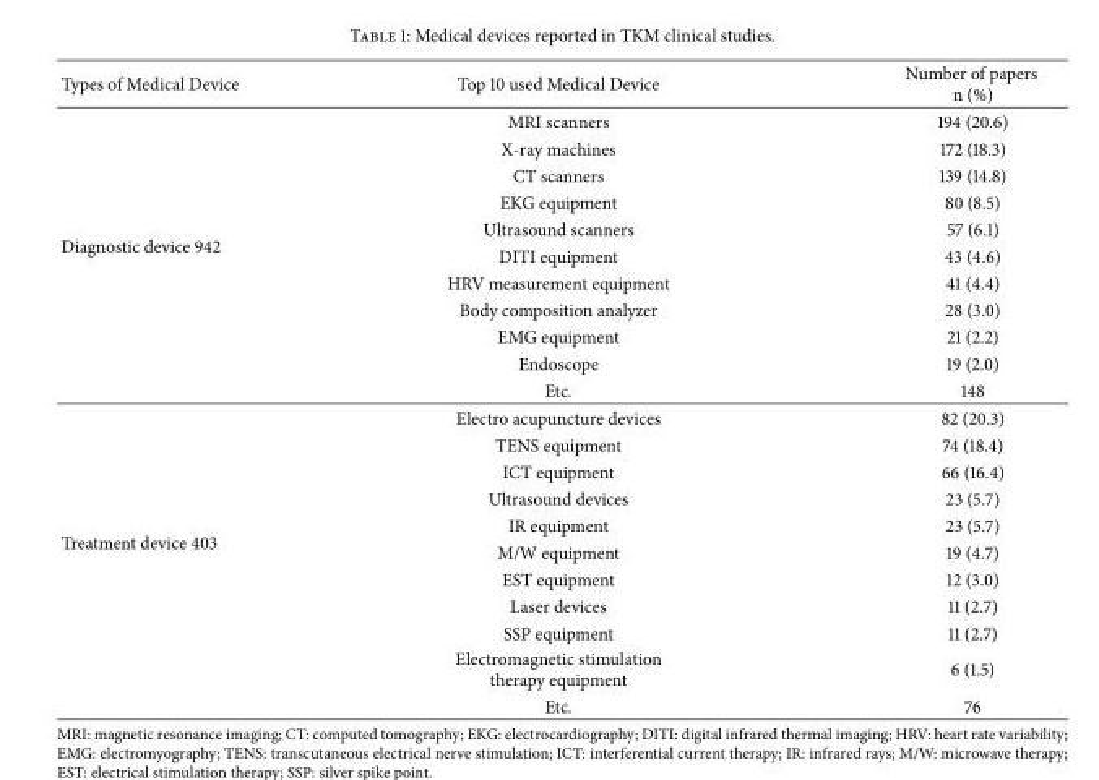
<table><thead><tr><td>Types of Medical Device</td><td>Top 10 used Medical Device</td><td>Number of papers n (%)</td></tr></thead><tbody><tr><td rowspan="11">Diagnostic device 942</td><td>MRI scanners</td><td>194 (20.6)</td></tr><tr><td>X-ray machines</td><td>172 (18.3)</td></tr><tr><td>CT scanners</td><td>139 (14.8)</td></tr><tr><td>EKG equipment</td><td>80 (8.5)</td></tr><tr><td>Ultrasound scanners</td><td>57 (6.1)</td></tr><tr><td>DITI equipment</td><td>43 (4.6)</td></tr><tr><td>HRV measurement equipment</td><td>41 (4.4)</td></tr><tr><td>Body composition analyzer</td><td>28 (3.0)</td></tr><tr><td>EMG equipment</td><td>21 (2.2)</td></tr><tr><td>Endoscope</td><td>19 (2.0)</td></tr><tr><td>Etc.</td><td>148</td></tr><tr><td rowspan="11">Treatment device 403</td><td>Electro acupuncture devices</td><td>82 (20.3)</td></tr><tr><td>TENS equipment</td><td>74 (18.4)</td></tr><tr><td>ICT equipment</td><td>66 (16.4)</td></tr><tr><td>Ultrasound devices</td><td>23 (5.7)</td></tr><tr><td>IR equipment</td><td>23 (5.7)</td></tr><tr><td>M/W equipment</td><td>19 (4.7)</td></tr><tr><td>EST equipment</td><td>12 (3.0)</td></tr><tr><td>Laser devices</td><td>11 (2.7)</td></tr><tr><td>SSP equipment</td><td>11 (2.7)</td></tr><tr><td>Electromagnetic stimulation therapy equipment</td><td>6 (1.5)</td></tr><tr><td>Etc.</td><td>76</td></tr></tbody></table>